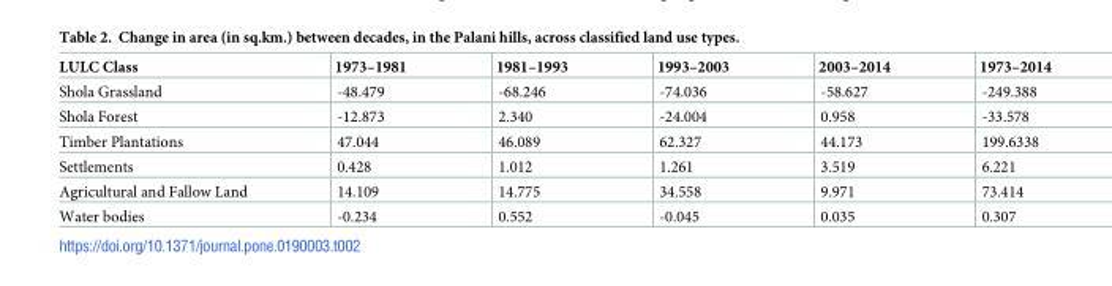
<table><thead><tr><td>LULC Class</td><td>1973–1981</td><td>1981–1993</td><td>1993–2003</td><td>2003–2014</td><td>1973–2014</td></tr></thead><tbody><tr><td>Shola Grassland</td><td>-48.479</td><td>-68.246</td><td>-74.036</td><td>-58.627</td><td>-249.388</td></tr><tr><td>Shola Forest</td><td>-12.873</td><td>2.340</td><td>-24.004</td><td>0.958</td><td>-33.578</td></tr><tr><td>Timber Plantations</td><td>47.044</td><td>46.089</td><td>62.327</td><td>44.173</td><td>199.6338</td></tr><tr><td>Settlements</td><td>0.428</td><td>1.012</td><td>1.261</td><td>3.519</td><td>6.221</td></tr><tr><td>Agricultural and Fallow Land</td><td>14.109</td><td>14.775</td><td>34.558</td><td>9.971</td><td>73.414</td></tr><tr><td>Water bodies</td><td>-0.234</td><td>0.552</td><td>-0.045</td><td>0.035</td><td>0.307</td></tr></tbody></table>